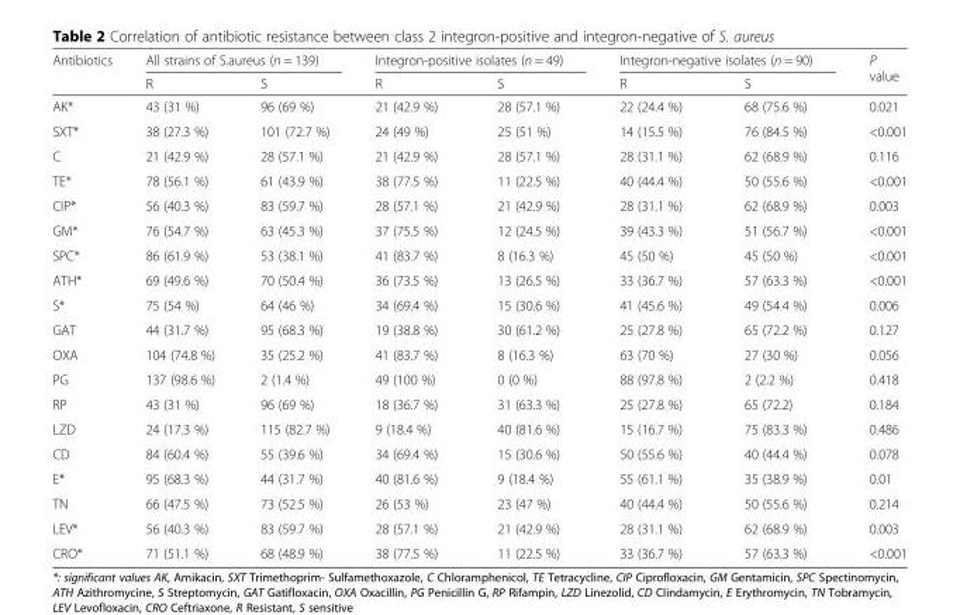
<table><thead><tr><td rowspan="2">Antibiotics</td><td colspan="2">All strains of S.aureus (n = 139)</td><td colspan="2">Integron-positive isolates (n = 49)</td><td colspan="2">Integron-negative isolates (n = 90)</td><td rowspan="2">P value</td></tr><tr><td>R</td><td>S</td><td>R</td><td>S</td><td>R</td><td>S</td></tr></thead><tbody><tr><td>AK*</td><td>43 (31 %)</td><td>96 (69 %)</td><td>21 (42.9 %)</td><td>28 (57.1 %)</td><td>22 (24.4 %)</td><td>68 (75.6 %)</td><td>0.021</td></tr><tr><td>SXT*</td><td>38 (27.3 %)</td><td>101 (72.7 %)</td><td>24 (49 %)</td><td>25 (51 %)</td><td>14 (15.5 %)</td><td>76 (84.5 %)</td><td>&lt;0.001</td></tr><tr><td>C</td><td>21 (42.9 %)</td><td>28 (57.1 %)</td><td>21 (42.9 %)</td><td>28 (57.1 %)</td><td>28 (31.1 %)</td><td>62 (68.9 %)</td><td>0.116</td></tr><tr><td>TE*</td><td>78 (56.1 %)</td><td>61 (43.9 %)</td><td>38 (77.5 %)</td><td>11 (22.5 %)</td><td>40 (44.4 %)</td><td>50 (55.6 %)</td><td>&lt;0.001</td></tr><tr><td>CIP*</td><td>56 (40.3 %)</td><td>83 (59.7 %)</td><td>28 (57.1 %)</td><td>21 (42.9 %)</td><td>28 (31.1 %)</td><td>62 (68.9 %)</td><td>0.003</td></tr><tr><td>GM*</td><td>76 (54.7 %)</td><td>63 (45.3 %)</td><td>37 (75.5 %)</td><td>12 (24.5 %)</td><td>39 (43.3 %)</td><td>51 (56.7 %)</td><td>&lt;0.001</td></tr><tr><td>SPC*</td><td>86 (61.9 %)</td><td>53 (38.1 %)</td><td>41 (83.7 %)</td><td>8 (16.3 %)</td><td>45 (50 %)</td><td>45 (50 %)</td><td>&lt;0.001</td></tr><tr><td>ATH*</td><td>69 (49.6 %)</td><td>70 (50.4 %)</td><td>36 (73.5 %)</td><td>13 (26.5 %)</td><td>33 (36.7 %)</td><td>57 (63.3 %)</td><td>&lt;0.001</td></tr><tr><td>S*</td><td>75 (54 %)</td><td>64 (46 %)</td><td>34 (69.4 %)</td><td>15 (30.6 %)</td><td>41 (45.6 %)</td><td>49 (54.4 %)</td><td>0.006</td></tr><tr><td>GAT</td><td>44 (31.7 %)</td><td>95 (68.3 %)</td><td>19 (38.8 %)</td><td>30 (61.2 %)</td><td>25 (27.8 %)</td><td>65 (72.2 %)</td><td>0.127</td></tr><tr><td>OXA</td><td>104 (74.8 %)</td><td>35 (25.2 %)</td><td>41 (83.7 %)</td><td>8 (16.3 %)</td><td>63 (70 %)</td><td>27 (30 %)</td><td>0.056</td></tr><tr><td>PG</td><td>137 (98.6 %)</td><td>2 (1.4 %)</td><td>49 (100 %)</td><td>0 (0 %)</td><td>88 (97.8 %)</td><td>2 (2.2 %)</td><td>0.418</td></tr><tr><td>RP</td><td>43 (31 %)</td><td>96 (69 %)</td><td>18 (36.7 %)</td><td>31 (63.3 %)</td><td>25 (27.8 %)</td><td>65 (72.2)</td><td>0.184</td></tr><tr><td>LZD</td><td>24 (17.3 %)</td><td>115 (82.7 %)</td><td>9 (18.4 %)</td><td>40 (81.6 %)</td><td>15 (16.7 %)</td><td>75 (83.3 %)</td><td>0.486</td></tr><tr><td>CD</td><td>84 (60.4 %)</td><td>55 (39.6 %)</td><td>34 (69.4 %)</td><td>15 (30.6 %)</td><td>50 (55.6 %)</td><td>40 (44.4 %)</td><td>0.078</td></tr><tr><td>E*</td><td>95 (68.3 %)</td><td>44 (31.7 %)</td><td>40 (81.6 %)</td><td>9 (18.4 %)</td><td>55 (61.1 %)</td><td>35 (38.9 %)</td><td>0.01</td></tr><tr><td>TN</td><td>66 (47.5 %)</td><td>73 (52.5 %)</td><td>26 (53 %)</td><td>23 (47 %)</td><td>40 (44.4 %)</td><td>50 (55.6 %)</td><td>0.214</td></tr><tr><td>LEV*</td><td>56 (40.3 %)</td><td>83 (59.7 %)</td><td>28 (57.1 %)</td><td>21 (42.9 %)</td><td>28 (31.1 %)</td><td>62 (68.9 %)</td><td>0.003</td></tr><tr><td>CRO*</td><td>71 (51.1 %)</td><td>68 (48.9 %)</td><td>38 (77.5 %)</td><td>11 (22.5 %)</td><td>33 (36.7 %)</td><td>57 (63.3 %)</td><td>&lt;0.001</td></tr></tbody></table>